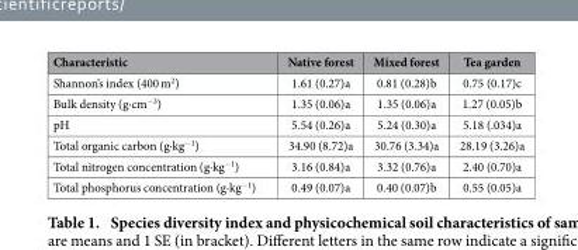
<table><thead><tr><td>Characteristic</td><td>Native forest</td><td>Mixed forest</td><td>Tea garden</td></tr></thead><tbody><tr><td>Shannon’s index (400 m<sup>2</sup>)</td><td>1.61 (0.27)a</td><td>0.81 (0.28)b</td><td>0.75 (0.17)c</td></tr><tr><td>Bulk density (g·cm<sup>−3</sup>)</td><td>1.35 (0.06)a</td><td>1.35 (0.06)a</td><td>1.27 (0.05)b</td></tr><tr><td>pH</td><td>5.54 (0.26)a</td><td>5.24 (0.30)a</td><td>5.18 (.034)a</td></tr><tr><td>Total organic carbon (g·kg<sup>−1</sup>)</td><td>34.90 (8.72)a</td><td>30.76 (3.34)a</td><td>28.19 (3.26)a</td></tr><tr><td>Total nitrogen concentration (g·kg<sup>−1</sup>)</td><td>3.16 (0.84)a</td><td>3.32 (0.76)a</td><td>2.40 (0.70)a</td></tr><tr><td>Total phosphorus concentration (g·kg<sup>−1</sup>)</td><td>0.49 (0.07)a</td><td>0.40 (0.07)b</td><td>0.55 (0.05)a</td></tr></tbody></table>